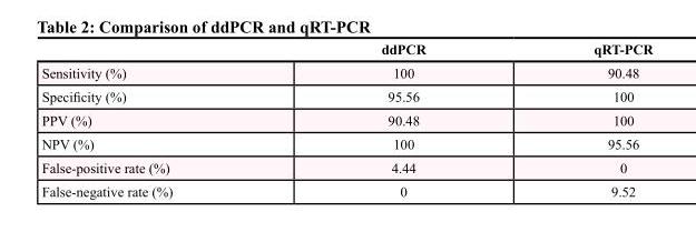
<table><thead><tr><td></td><td>ddPCR</td><td>qRT-PCR</td></tr></thead><tbody><tr><td>Sensitivity (%)</td><td>100</td><td>90.48</td></tr><tr><td>Specificity (%)</td><td>95.56</td><td>100</td></tr><tr><td>PPV (%)</td><td>90.48</td><td>100</td></tr><tr><td>NPV (%)</td><td>100</td><td>95.56</td></tr><tr><td>False-positive rate (%)</td><td>4.44</td><td>0</td></tr><tr><td>False-negative rate (%)</td><td>0</td><td>9.52</td></tr></tbody></table>